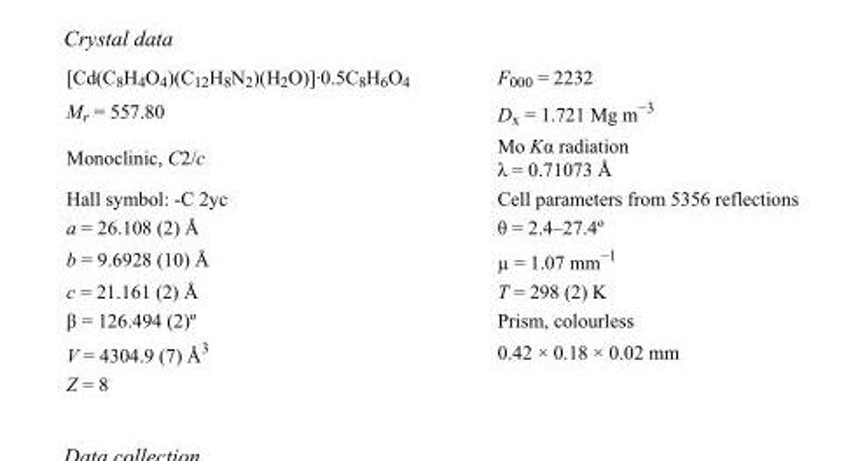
<table><tbody><tr><td>[Cd(C<sub>8</sub>H<sub>4</sub>O<sub>4</sub>)(C<sub>12</sub>H<sub>8</sub>N<sub>2</sub>)(H<sub>2</sub>O)]·0.5C<sub>8</sub>H<sub>6</sub>O<sub>4</sub></td><td>F000 = 2232</td></tr><tr><td>M<sub>r</sub> = 557.80</td><td>D<sub>x</sub> = 1.721 Mg m<sup>−3</sup></td></tr><tr><td>Monoclinic, C2/c</td><td>Mo Kα radiation λ = 0.71073 Å</td></tr><tr><td>Hall symbol: -C 2yc</td><td>Cell parameters from 5356 reflections</td></tr><tr><td>a = 26.108 (2) Å</td><td>θ = 2.4–27.4º</td></tr><tr><td>b = 9.6928 (10) Å</td><td>µ = 1.07 mm<sup>−1</sup></td></tr><tr><td>c = 21.161 (2) Å</td><td>T = 298 (2) K</td></tr><tr><td>β = 126.494 (2)º</td><td>Prism, colourless</td></tr><tr><td>V = 4304.9 (7) Å<sup>3</sup></td><td>0.42 × 0.18 × 0.02 mm</td></tr><tr><td>Z = 8</td><td></td></tr></tbody></table>